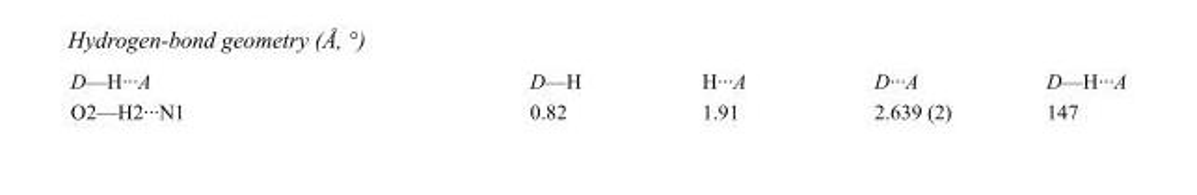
<table><tbody><tr><td>D—H···A</td><td>D—H</td><td>H···A</td><td>D···A</td><td>D—H···A</td></tr><tr><td>O2—H2···N1</td><td>0.82</td><td>1.91</td><td>2.639 (2)</td><td>147</td></tr></tbody></table>